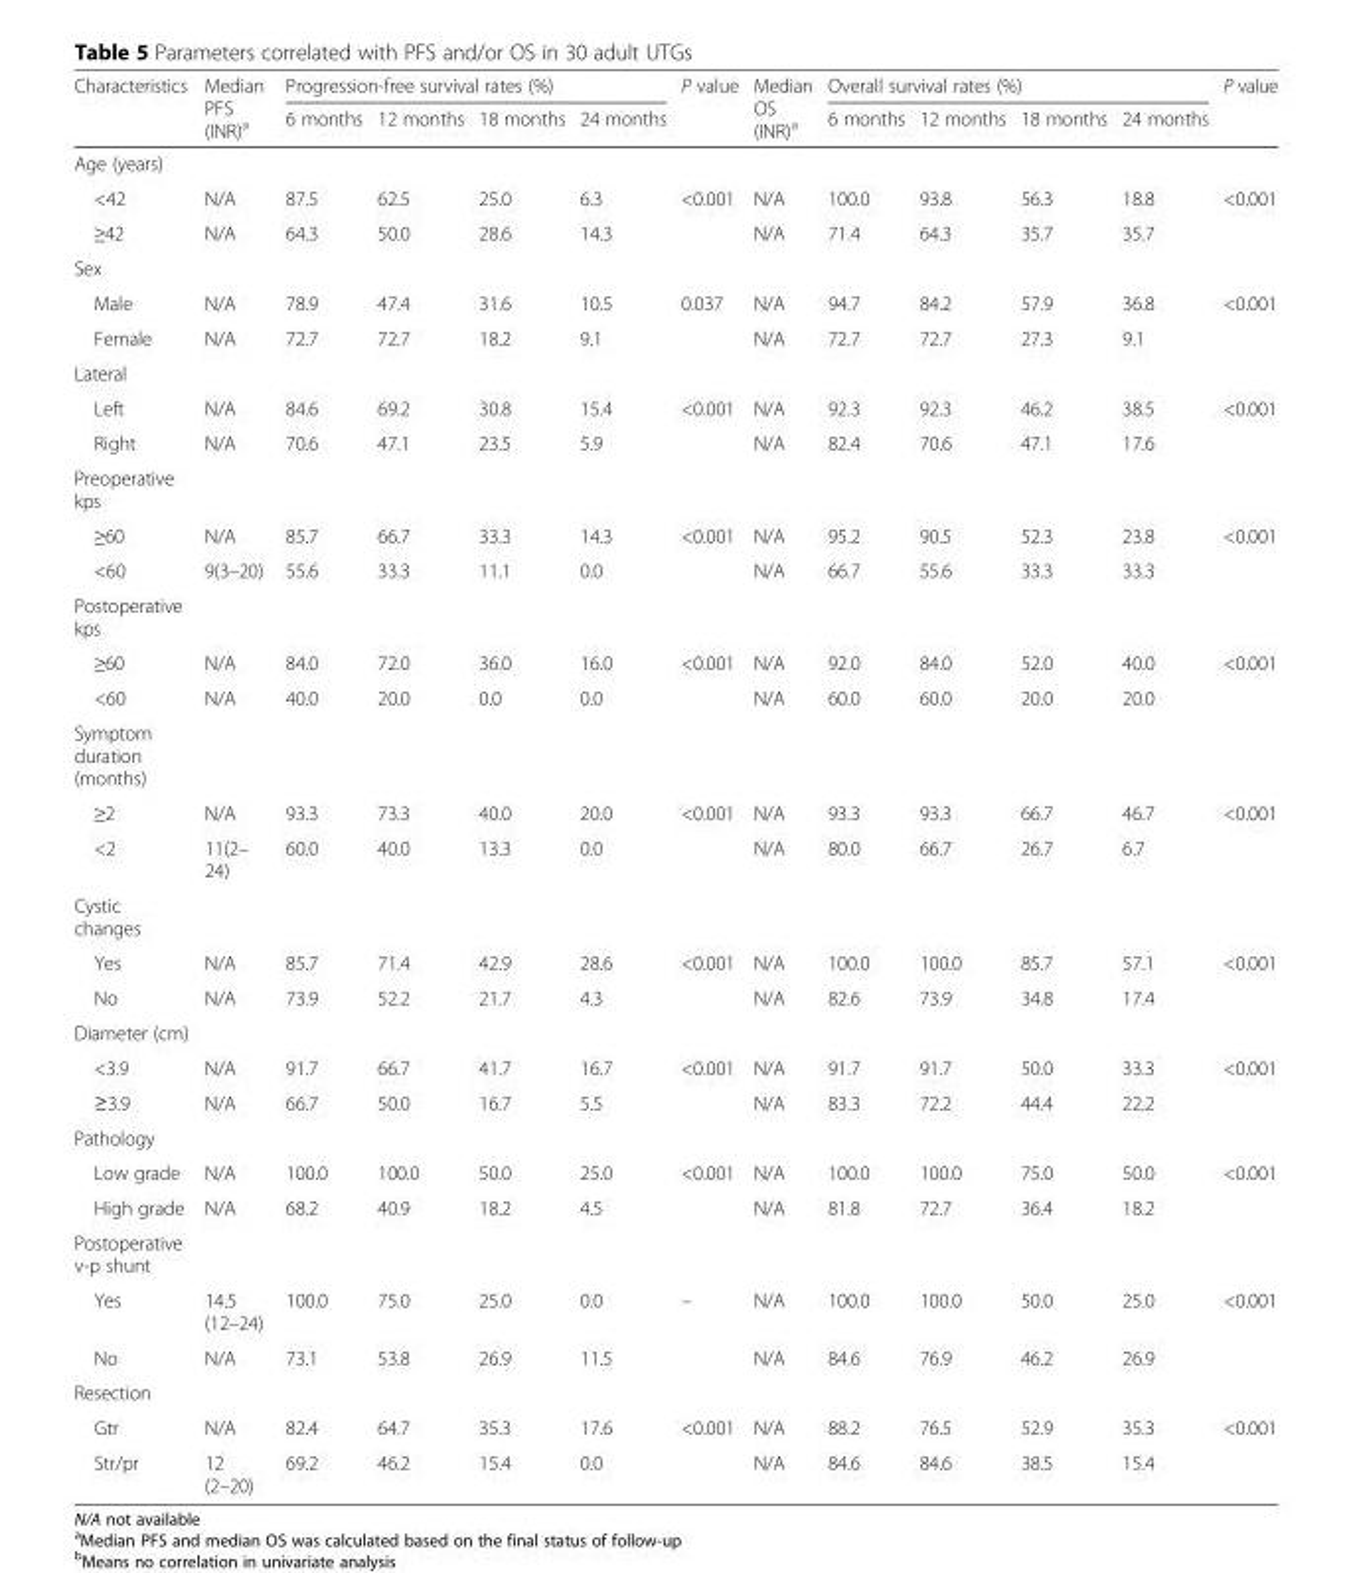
<table><thead><tr><td rowspan="2">Characteristics</td><td rowspan="2">Median PFS (INR)<sup>a</sup></td><td colspan="4">Progression-free survival rates (%)</td><td rowspan="2">P value</td><td rowspan="2">Median OS (INR)<sup>a</sup></td><td colspan="4">Overall survival rates (%)</td><td rowspan="2">P value</td></tr><tr><td>6 months</td><td>12 months</td><td>18 months</td><td>24 months</td><td>6 months</td><td>12 months</td><td>18 months</td><td>24 months</td></tr></thead><tbody><tr><td colspan="13">Age (years)</td></tr><tr><td>&lt;42</td><td>N/A</td><td>87.5</td><td>62.5</td><td>25.0</td><td>6.3</td><td rowspan="2">&lt;0.001</td><td>N/A</td><td>100.0</td><td>93.8</td><td>56.3</td><td>18.8</td><td rowspan="2">&lt;0.001</td></tr><tr><td>≥42</td><td>N/A</td><td>64.3</td><td>50.0</td><td>28.6</td><td>14.3</td><td>N/A</td><td>71.4</td><td>64.3</td><td>35.7</td><td>35.7</td></tr><tr><td colspan="13">Sex</td></tr><tr><td>Male</td><td>N/A</td><td>78.9</td><td>47.4</td><td>31.6</td><td>10.5</td><td rowspan="2">0.037</td><td>N/A</td><td>94.7</td><td>84.2</td><td>57.9</td><td>36.8</td><td rowspan="2">&lt;0.001</td></tr><tr><td>Female</td><td>N/A</td><td>72.7</td><td>72.7</td><td>18.2</td><td>9.1</td><td>N/A</td><td>72.7</td><td>72.7</td><td>27.3</td><td>9.1</td></tr><tr><td colspan="13">Lateral</td></tr><tr><td>Left</td><td>N/A</td><td>84.6</td><td>69.2</td><td>30.8</td><td>15.4</td><td rowspan="2">&lt;0.001</td><td>N/A</td><td>92.3</td><td>92.3</td><td>46.2</td><td>38.5</td><td rowspan="2">&lt;0.001</td></tr><tr><td>Right</td><td>N/A</td><td>70.6</td><td>47.1</td><td>23.5</td><td>5.9</td><td>N/A</td><td>82.4</td><td>70.6</td><td>47.1</td><td>17.6</td></tr><tr><td colspan="13">Preoperative kps</td></tr><tr><td>≥60</td><td>N/A</td><td>85.7</td><td>66.7</td><td>33.3</td><td>14.3</td><td rowspan="2">&lt;0.001</td><td>N/A</td><td>95.2</td><td>90.5</td><td>52.3</td><td>23.8</td><td rowspan="2">&lt;0.001</td></tr><tr><td>&lt;60</td><td>9(3–20)</td><td>55.6</td><td>33.3</td><td>11.1</td><td>0.0</td><td>N/A</td><td>66.7</td><td>55.6</td><td>33.3</td><td>33.3</td></tr><tr><td colspan="13">Postoperative kps</td></tr><tr><td>≥60</td><td>N/A</td><td>84.0</td><td>72.0</td><td>36.0</td><td>16.0</td><td rowspan="2">&lt;0.001</td><td>N/A</td><td>92.0</td><td>84.0</td><td>52.0</td><td>40.0</td><td rowspan="2">&lt;0.001</td></tr><tr><td>&lt;60</td><td>N/A</td><td>40.0</td><td>20.0</td><td>0.0</td><td>0.0</td><td>N/A</td><td>60.0</td><td>60.0</td><td>20.0</td><td>20.0</td></tr><tr><td colspan="13">Symptom duration (months)</td></tr><tr><td>≥2</td><td>N/A</td><td>93.3</td><td>73.3</td><td>40.0</td><td>20.0</td><td rowspan="2">&lt;0.001</td><td>N/A</td><td>93.3</td><td>93.3</td><td>66.7</td><td>46.7</td><td rowspan="2">&lt;0.001</td></tr><tr><td>&lt;2</td><td>11(2– 24)</td><td>60.0</td><td>40.0</td><td>13.3</td><td>0.0</td><td>N/A</td><td>80.0</td><td>66.7</td><td>26.7</td><td>6.7</td></tr><tr><td colspan="13">Cystic changes</td></tr><tr><td>Yes</td><td>N/A</td><td>85.7</td><td>71.4</td><td>42.9</td><td>28.6</td><td rowspan="2">&lt;0.001</td><td>N/A</td><td>100.0</td><td>100.0</td><td>85.7</td><td>57.1</td><td rowspan="2">&lt;0.001</td></tr><tr><td>No</td><td>N/A</td><td>73.9</td><td>52.2</td><td>21.7</td><td>4.3</td><td>N/A</td><td>82.6</td><td>73.9</td><td>34.8</td><td>17.4</td></tr><tr><td colspan="13">Diameter (cm)</td></tr><tr><td>&lt;3.9</td><td>N/A</td><td>91.7</td><td>66.7</td><td>41.7</td><td>16.7</td><td rowspan="2">&lt;0.001</td><td>N/A</td><td>91.7</td><td>91.7</td><td>50.0</td><td>33.3</td><td rowspan="2">&lt;0.001</td></tr><tr><td>≥3.9</td><td>N/A</td><td>66.7</td><td>50.0</td><td>16.7</td><td>5.5</td><td>N/A</td><td>83.3</td><td>72.2</td><td>44.4</td><td>22.2</td></tr><tr><td colspan="13">Pathology</td></tr><tr><td>Low grade</td><td>N/A</td><td>100.0</td><td>100.0</td><td>50.0</td><td>25.0</td><td rowspan="2">&lt;0.001</td><td>N/A</td><td>100.0</td><td>100.0</td><td>75.0</td><td>50.0</td><td rowspan="2">&lt;0.001</td></tr><tr><td>High grade</td><td>N/A</td><td>68.2</td><td>40.9</td><td>18.2</td><td>4.5</td><td>N/A</td><td>81.8</td><td>72.7</td><td>36.4</td><td>18.2</td></tr><tr><td colspan="13">Postoperative v-p shunt</td></tr><tr><td>Yes</td><td>14.5 (12–24)</td><td>100.0</td><td>75.0</td><td>25.0</td><td>0.0</td><td rowspan="2">–</td><td>N/A</td><td>100.0</td><td>100.0</td><td>50.0</td><td>25.0</td><td rowspan="2">&lt;0.001</td></tr><tr><td>No</td><td>N/A</td><td>73.1</td><td>53.8</td><td>26.9</td><td>11.5</td><td>N/A</td><td>84.6</td><td>76.9</td><td>46.2</td><td>26.9</td></tr><tr><td colspan="13">Resection</td></tr><tr><td>Gtr</td><td>N/A</td><td>82.4</td><td>64.7</td><td>35.3</td><td>17.6</td><td rowspan="2">&lt;0.001</td><td>N/A</td><td>88.2</td><td>76.5</td><td>52.9</td><td>35.3</td><td rowspan="2">&lt;0.001</td></tr><tr><td>Str/pr</td><td>12 (2–20)</td><td>69.2</td><td>46.2</td><td>15.4</td><td>0.0</td><td>N/A</td><td>84.6</td><td>84.6</td><td>38.5</td><td>15.4</td></tr></tbody></table>